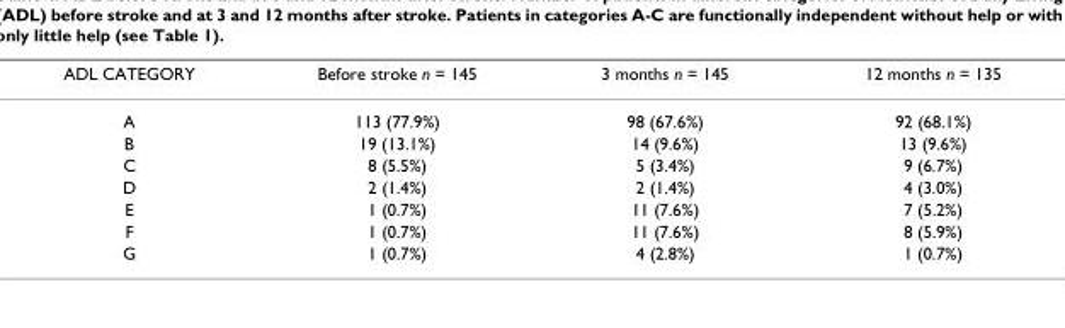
<table><thead><tr><td>ADL CATEGORY</td><td>Before stroke n = 145</td><td>3 months n = 145</td><td>12 months n = 135</td></tr></thead><tbody><tr><td>A</td><td>113 (77.9%)</td><td>98 (67.6%)</td><td>92 (68.1%)</td></tr><tr><td>B</td><td>19 (13.1%)</td><td>14 (9.6%)</td><td>13 (9.6%)</td></tr><tr><td>C</td><td>8 (5.5%)</td><td>5 (3.4%)</td><td>9 (6.7%)</td></tr><tr><td>D</td><td>2 (1.4%)</td><td>2 (1.4%)</td><td>4 (3.0%)</td></tr><tr><td>E</td><td>1 (0.7%)</td><td>11 (7.6%)</td><td>7 (5.2%)</td></tr><tr><td>F</td><td>1 (0.7%)</td><td>11 (7.6%)</td><td>8 (5.9%)</td></tr><tr><td>G</td><td>1 (0.7%)</td><td>4 (2.8%)</td><td>1 (0.7%)</td></tr></tbody></table>